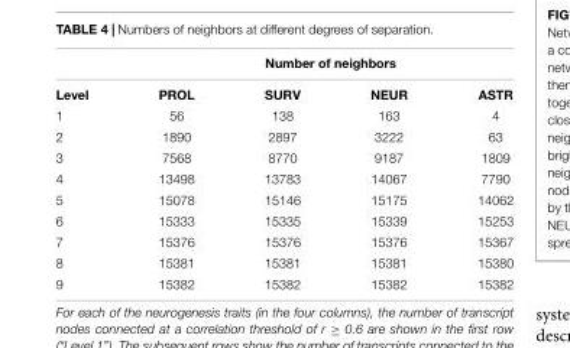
<table><thead><tr><td rowspan="2">Level</td><td colspan="4">Number of neighbors</td></tr><tr><td>PROL</td><td>SURV</td><td>NEUR</td><td>ASTR</td></tr></thead><tbody><tr><td>1</td><td>56</td><td>138</td><td>163</td><td>4</td></tr><tr><td>2</td><td>1890</td><td>2897</td><td>3222</td><td>63</td></tr><tr><td>3</td><td>7568</td><td>8770</td><td>9187</td><td>1809</td></tr><tr><td>4</td><td>13498</td><td>13783</td><td>14067</td><td>7790</td></tr><tr><td>5</td><td>15078</td><td>15146</td><td>15175</td><td>14062</td></tr><tr><td>6</td><td>15333</td><td>15335</td><td>15339</td><td>15253</td></tr><tr><td>7</td><td>15376</td><td>15376</td><td>15376</td><td>15367</td></tr><tr><td>8</td><td>15381</td><td>15381</td><td>15381</td><td>15380</td></tr><tr><td>9</td><td>15382</td><td>15382</td><td>15382</td><td>15382</td></tr></tbody></table>